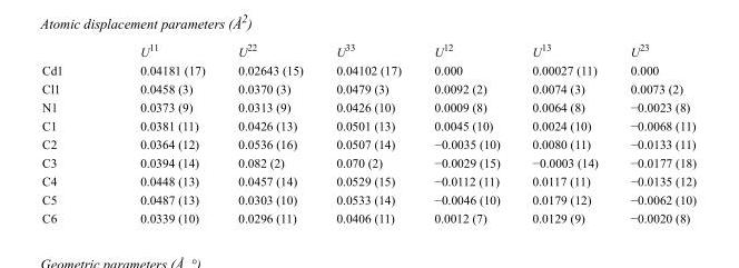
<table><thead><tr><td></td><td>U<sup>11</sup></td><td>U<sup>22</sup></td><td>U<sup>33</sup></td><td>U<sup>12</sup></td><td>U<sup>13</sup></td><td>U<sup>23</sup></td></tr></thead><tbody><tr><td>Cd1</td><td>0.04181 (17)</td><td>0.02643 (15)</td><td>0.04102 (17)</td><td>0.000</td><td>0.00027 (11)</td><td>0.000</td></tr><tr><td>Cl1</td><td>0.0458 (3)</td><td>0.0370 (3)</td><td>0.0479 (3)</td><td>0.0092 (2)</td><td>0.0074 (3)</td><td>0.0073 (2)</td></tr><tr><td>N1</td><td>0.0373 (9)</td><td>0.0313 (9)</td><td>0.0426 (10)</td><td>0.0009 (8)</td><td>0.0064 (8)</td><td>−0.0023 (8)</td></tr><tr><td>C1</td><td>0.0381 (11)</td><td>0.0426 (13)</td><td>0.0501 (13)</td><td>0.0045 (10)</td><td>0.0024 (10)</td><td>−0.0068 (11)</td></tr><tr><td>C2</td><td>0.0364 (12)</td><td>0.0536 (16)</td><td>0.0507 (14)</td><td>−0.0035 (10)</td><td>0.0080 (11)</td><td>−0.0133 (11)</td></tr><tr><td>C3</td><td>0.0394 (14)</td><td>0.082 (2)</td><td>0.070 (2)</td><td>−0.0029 (15)</td><td>−0.0003 (14)</td><td>−0.0177 (18)</td></tr><tr><td>C4</td><td>0.0448 (13)</td><td>0.0457 (14)</td><td>0.0529 (15)</td><td>−0.0112 (11)</td><td>0.0117 (11)</td><td>−0.0135 (12)</td></tr><tr><td>C5</td><td>0.0487 (13)</td><td>0.0303 (10)</td><td>0.0533 (14)</td><td>−0.0046 (10)</td><td>0.0179 (12)</td><td>−0.0062 (10)</td></tr><tr><td>C6</td><td>0.0339 (10)</td><td>0.0296 (11)</td><td>0.0406 (11)</td><td>0.0012 (7)</td><td>0.0129 (9)</td><td>−0.0020 (8)</td></tr></tbody></table>